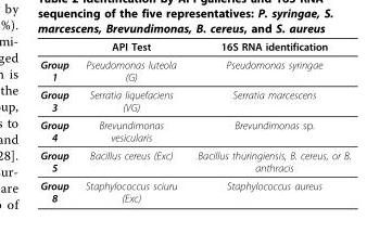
<table><thead><tr><td></td><td>API Test</td><td>16S RNA identification</td></tr></thead><tbody><tr><td>Group 1</td><td>Pseudomonas luteola (G)</td><td>Pseudomonas syringae</td></tr><tr><td>Group 3</td><td>Serratia liquefaciens (VG)</td><td>Serratia marcescens</td></tr><tr><td>Group 4</td><td>Brevundimonas vesicularis</td><td>Brevundimonas sp.</td></tr><tr><td>Group 5</td><td>Bacillus cereus (Exc)</td><td>Bacillus thuringiensis, B. cereus, or B. anthracis</td></tr><tr><td>Group 8</td><td>Staphylococcus sciuru (Exc)</td><td>Staphylococcus aureus</td></tr></tbody></table>